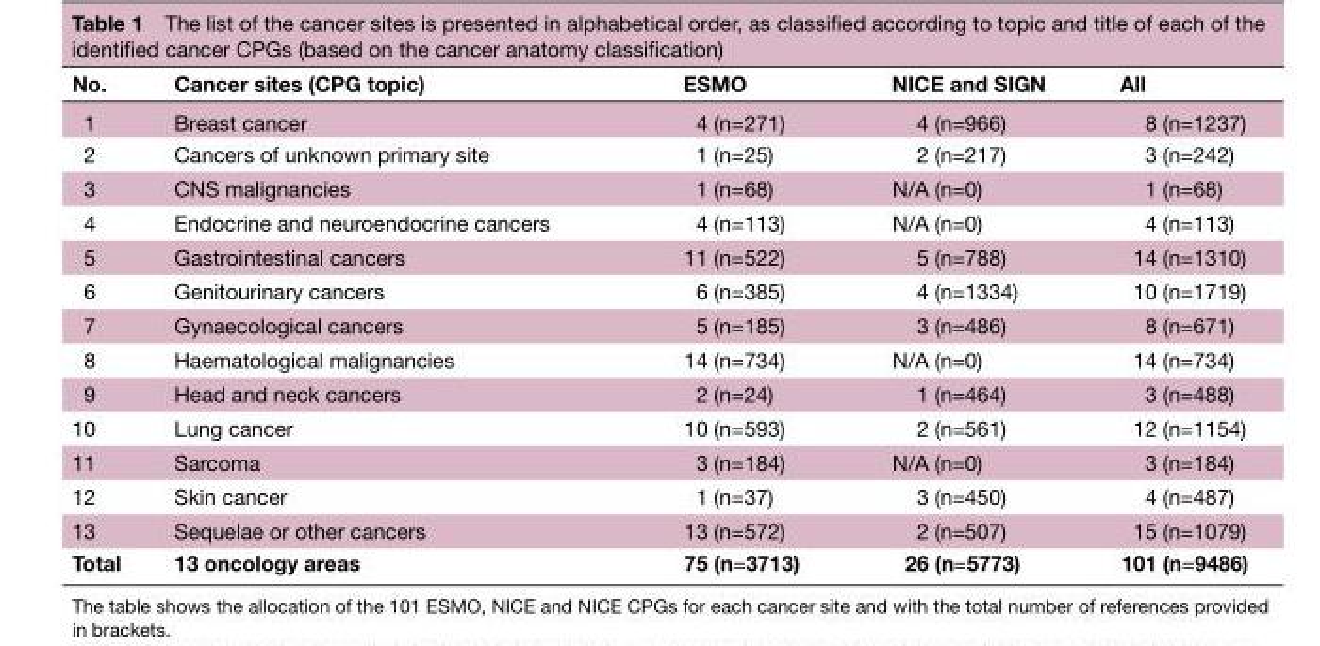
<table><thead><tr><td>No.</td><td>Cancer sites (CPG topic)</td><td>ESMO</td><td>NICE and SIGN</td><td>All</td></tr></thead><tbody><tr><td>1</td><td>Breast cancer</td><td>4 (n=271)</td><td>4 (n=966)</td><td>8 (n=1237)</td></tr><tr><td>2</td><td>Cancers of unknown primary site</td><td>1 (n=25)</td><td>2 (n=217)</td><td>3 (n=242)</td></tr><tr><td>3</td><td>CNS malignancies</td><td>1 (n=68)</td><td>N/A (n=0)</td><td>1 (n=68)</td></tr><tr><td>4</td><td>Endocrine and neuroendocrine cancers</td><td>4 (n=113)</td><td>N/A (n=0)</td><td>4 (n=113)</td></tr><tr><td>5</td><td>Gastrointestinal cancers</td><td>11 (n=522)</td><td>5 (n=788)</td><td>14 (n=1310)</td></tr><tr><td>6</td><td>Genitourinary cancers</td><td>6 (n=385)</td><td>4 (n=1334)</td><td>10 (n=1719)</td></tr><tr><td>7</td><td>Gynaecological cancers</td><td>5 (n=185)</td><td>3 (n=486)</td><td>8 (n=671)</td></tr><tr><td>8</td><td>Haematological malignancies</td><td>14 (n=734)</td><td>N/A (n=0)</td><td>14 (n=734)</td></tr><tr><td>9</td><td>Head and neck cancers</td><td>2 (n=24)</td><td>1 (n=464)</td><td>3 (n=488)</td></tr><tr><td>10</td><td>Lung cancer</td><td>10 (n=593)</td><td>2 (n=561)</td><td>12 (n=1154)</td></tr><tr><td>11</td><td>Sarcoma</td><td>3 (n=184)</td><td>N/A (n=0)</td><td>3 (n=184)</td></tr><tr><td>12</td><td>Skin cancer</td><td>1 (n=37)</td><td>3 (n=450)</td><td>4 (n=487)</td></tr><tr><td>13</td><td>Sequelae or other cancers</td><td>13 (n=572)</td><td>2 (n=507)</td><td>15 (n=1079)</td></tr><tr><td>Total</td><td>13 oncology areas</td><td>75 (n=3713)</td><td>26 (n=5773)</td><td>101 (n=9486)</td></tr></tbody></table>